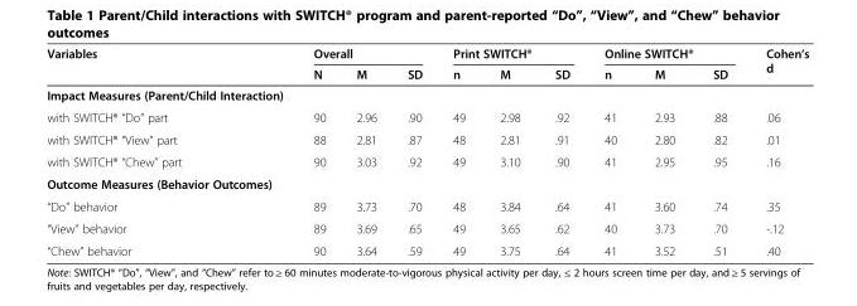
<table><thead><tr><td rowspan="2">Variables</td><td colspan="3">Overall</td><td colspan="3">Print SWITCH®</td><td colspan="3">Online SWITCH®</td><td rowspan="2">Cohen’s d</td></tr><tr><td>N</td><td>M</td><td>SD</td><td>n</td><td>M</td><td>SD</td><td>n</td><td>M</td><td>SD</td></tr></thead><tbody><tr><td colspan="11">Impact Measures (Parent/Child Interaction)</td></tr><tr><td>with SWITCH® “Do” part</td><td>90</td><td>2.96</td><td>.90</td><td>49</td><td>2.98</td><td>.92</td><td>41</td><td>2.93</td><td>.88</td><td>.06</td></tr><tr><td>with SWITCH® “View” part</td><td>88</td><td>2.81</td><td>.87</td><td>48</td><td>2.81</td><td>.91</td><td>40</td><td>2.80</td><td>.82</td><td>.01</td></tr><tr><td>with SWITCH® “Chew” part</td><td>90</td><td>3.03</td><td>.92</td><td>49</td><td>3.10</td><td>.90</td><td>41</td><td>2.95</td><td>.95</td><td>.16</td></tr><tr><td colspan="11">Outcome Measures (Behavior Outcomes)</td></tr><tr><td>“Do” behavior</td><td>89</td><td>3.73</td><td>.70</td><td>48</td><td>3.84</td><td>.64</td><td>41</td><td>3.60</td><td>.74</td><td>.35</td></tr><tr><td>“View” behavior</td><td>89</td><td>3.69</td><td>.65</td><td>49</td><td>3.65</td><td>.62</td><td>40</td><td>3.73</td><td>.70</td><td>-.12</td></tr><tr><td>“Chew” behavior</td><td>90</td><td>3.64</td><td>.59</td><td>49</td><td>3.75</td><td>.64</td><td>41</td><td>3.52</td><td>.51</td><td>.40</td></tr></tbody></table>